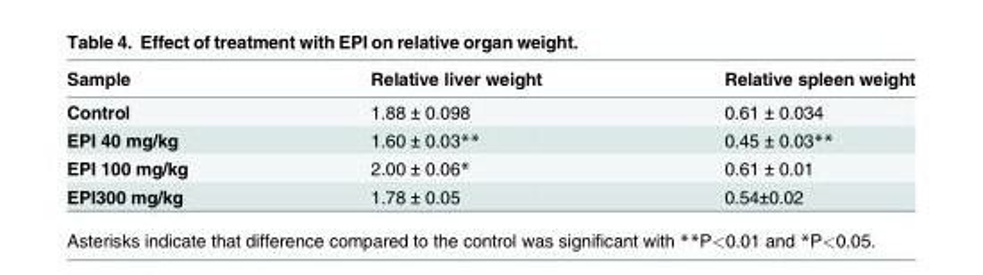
<table><thead><tr><td>Sample</td><td>Relative liver weight</td><td>Relative spleen weight</td></tr></thead><tbody><tr><td>Control</td><td>1.88 ± 0.098</td><td>0.61 ± 0.034</td></tr><tr><td>EPI 40 mg/kg</td><td>1.60 ± 0.03**</td><td>0.45 ± 0.03**</td></tr><tr><td>EPI 100 mg/kg</td><td>2.00 ± 0.06*</td><td>0.61 ± 0.01</td></tr><tr><td>EPI300 mg/kg</td><td>1.78 ± 0.05</td><td>0.54±0.02</td></tr></tbody></table>